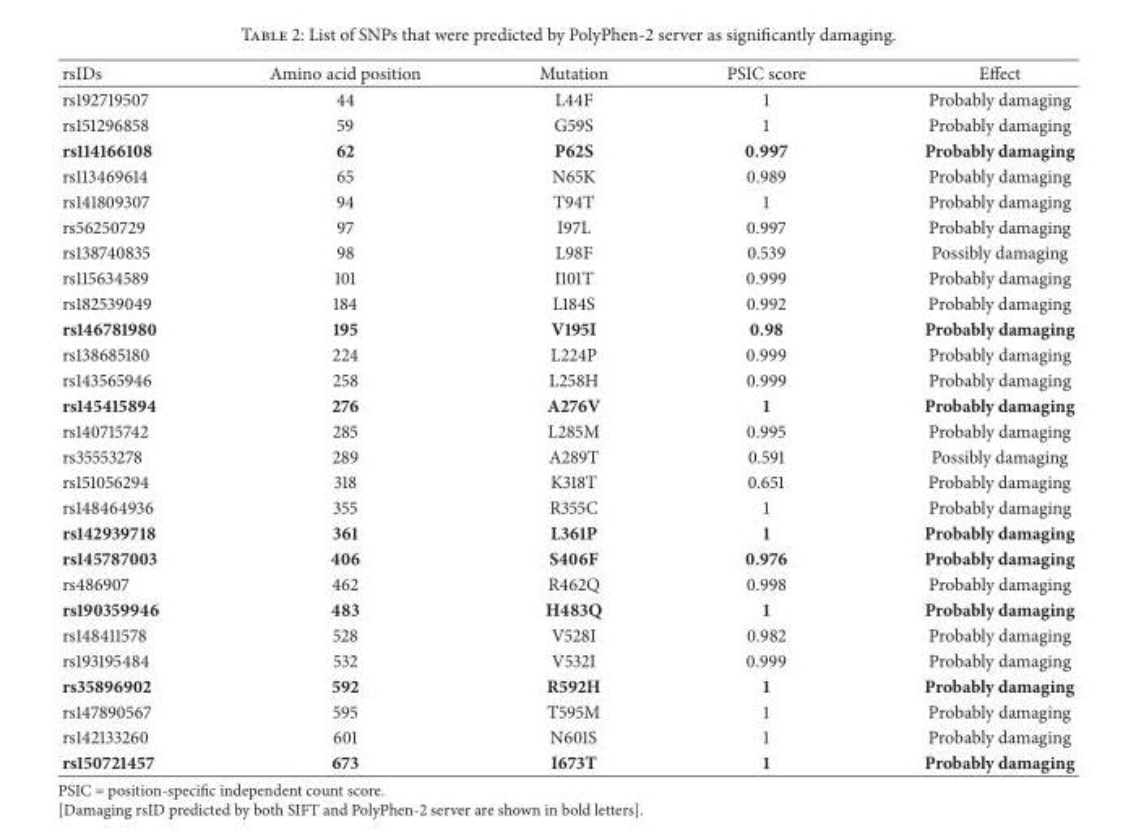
<table><thead><tr><td>rsIDs</td><td>Amino acid position</td><td>Mutation</td><td>PSIC score</td><td>Effect</td></tr></thead><tbody><tr><td>rs192719507</td><td>44</td><td>L44F</td><td>1</td><td>Probably damaging</td></tr><tr><td>rs151296858</td><td>59</td><td>G59S</td><td>1</td><td>Probably damaging</td></tr><tr><td>rs114166108</td><td>62</td><td>P62S</td><td>0.997</td><td>Probably damaging</td></tr><tr><td>rs113469614</td><td>65</td><td>N65K</td><td>0.989</td><td>Probably damaging</td></tr><tr><td>rs141809307</td><td>94</td><td>T94T</td><td>1</td><td>Probably damaging</td></tr><tr><td>rs56250729</td><td>97</td><td>I97L</td><td>0.997</td><td>Probably damaging</td></tr><tr><td>rs138740835</td><td>98</td><td>L98F</td><td>0.539</td><td>Possibly damaging</td></tr><tr><td>rs115634589</td><td>101</td><td>I101T</td><td>0.999</td><td>Probably damaging</td></tr><tr><td>rs182539049</td><td>184</td><td>L184S</td><td>0.992</td><td>Probably damaging</td></tr><tr><td>rs146781980</td><td>195</td><td>V195I</td><td>0.98</td><td>Probably damaging</td></tr><tr><td>rs138685180</td><td>224</td><td>L224P</td><td>0.999</td><td>Probably damaging</td></tr><tr><td>rs143565946</td><td>258</td><td>L258H</td><td>0.999</td><td>Probably damaging</td></tr><tr><td>rs145415894</td><td>276</td><td>A276V</td><td>1</td><td>Probably damaging</td></tr><tr><td>rs140715742</td><td>285</td><td>L285M</td><td>0.995</td><td>Probably damaging</td></tr><tr><td>rs35553278</td><td>289</td><td>A289T</td><td>0.591</td><td>Possibly damaging</td></tr><tr><td>rs151056294</td><td>318</td><td>K318T</td><td>0.651</td><td>Probably damaging</td></tr><tr><td>rs148464936</td><td>355</td><td>R355C</td><td>1</td><td>Probably damaging</td></tr><tr><td>rs142939718</td><td>361</td><td>L361P</td><td>1</td><td>Probably damaging</td></tr><tr><td>rs145787003</td><td>406</td><td>S406F</td><td>0.976</td><td>Probably damaging</td></tr><tr><td>rs486907</td><td>462</td><td>R462Q</td><td>0.998</td><td>Probably damaging</td></tr><tr><td>rs190359946</td><td>483</td><td>H483Q</td><td>1</td><td>Probably damaging</td></tr><tr><td>rs148411578</td><td>528</td><td>V528I</td><td>0.982</td><td>Probably damaging</td></tr><tr><td>rs193195484</td><td>532</td><td>V532I</td><td>0.999</td><td>Probably damaging</td></tr><tr><td>rs35896902</td><td>592</td><td>R592H</td><td>1</td><td>Probably damaging</td></tr><tr><td>rs147890567</td><td>595</td><td>T595M</td><td>1</td><td>Probably damaging</td></tr><tr><td>rs142133260</td><td>601</td><td>N601S</td><td>1</td><td>Probably damaging</td></tr><tr><td>rs150721457</td><td>673</td><td>I673T</td><td>1</td><td>Probably damaging</td></tr></tbody></table>